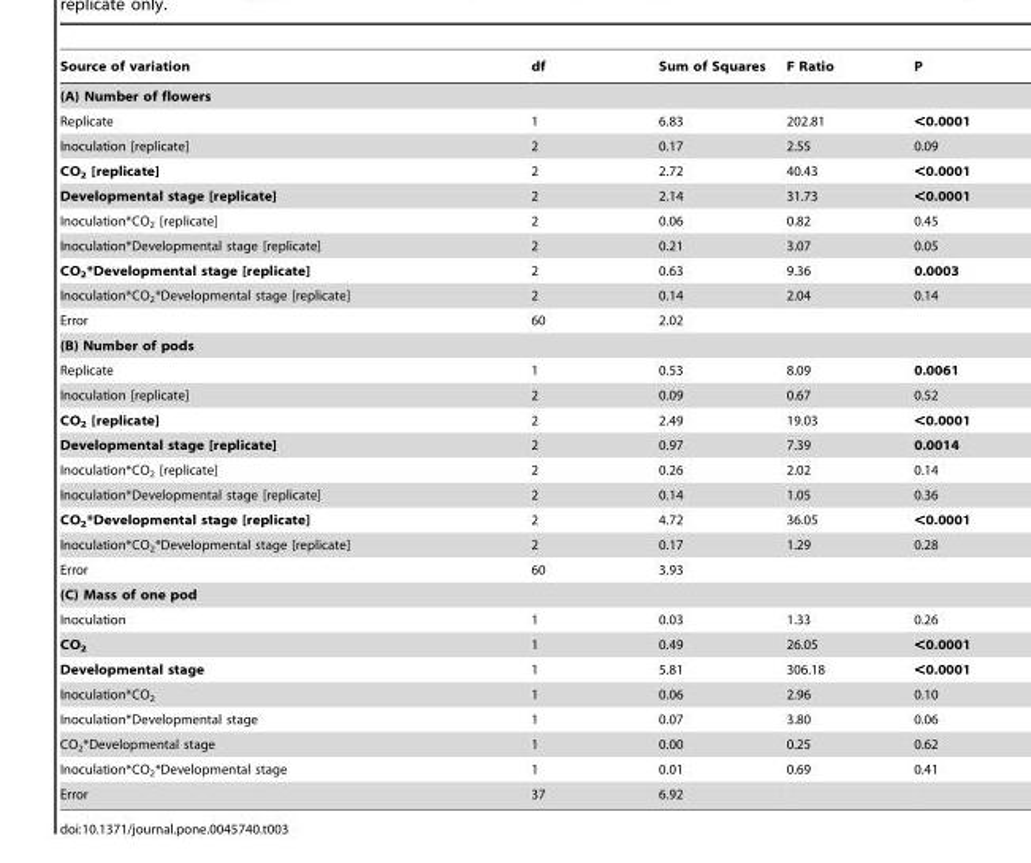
<table><thead><tr><td>Source of variation</td><td>df</td><td>Sum of Squares</td><td>F Ratio</td><td>P</td></tr></thead><tbody><tr><td colspan="5">(A) Number of flowers</td></tr><tr><td>Replicate</td><td>1</td><td>6.83</td><td>202.81</td><td>&lt;0.0001</td></tr><tr><td>Inoculation [replicate]</td><td>2</td><td>0.17</td><td>2.55</td><td>0.09</td></tr><tr><td>CO<sub>2</sub> [replicate]</td><td>2</td><td>2.72</td><td>40.43</td><td>&lt;0.0001</td></tr><tr><td>Developmental stage [replicate]</td><td>2</td><td>2.14</td><td>31.73</td><td>&lt;0.0001</td></tr><tr><td>Inoculation*CO<sub>2</sub> [replicate]</td><td>2</td><td>0.06</td><td>0.82</td><td>0.45</td></tr><tr><td>Inoculation*Developmental stage [replicate]</td><td>2</td><td>0.21</td><td>3.07</td><td>0.05</td></tr><tr><td>CO<sub>2</sub>*Developmental stage [replicate]</td><td>2</td><td>0.63</td><td>9.36</td><td>0.0003</td></tr><tr><td>Inoculation*CO<sub>2</sub>*Developmental stage [replicate]</td><td>2</td><td>0.14</td><td>2.04</td><td>0.14</td></tr><tr><td>Error</td><td>60</td><td>2.02</td><td></td><td></td></tr><tr><td colspan="5">(B) Number of pods</td></tr><tr><td>Replicate</td><td>1</td><td>0.53</td><td>8.09</td><td>0.0061</td></tr><tr><td>Inoculation [replicate]</td><td>2</td><td>0.09</td><td>0.67</td><td>0.52</td></tr><tr><td>CO<sub>2</sub> [replicate]</td><td>2</td><td>2.49</td><td>19.03</td><td>&lt;0.0001</td></tr><tr><td>Developmental stage [replicate]</td><td>2</td><td>0.97</td><td>7.39</td><td>0.0014</td></tr><tr><td>Inoculation*CO<sub>2</sub> [replicate]</td><td>2</td><td>0.26</td><td>2.02</td><td>0.14</td></tr><tr><td>Inoculation*Developmental stage [replicate]</td><td>2</td><td>0.14</td><td>1.05</td><td>0.36</td></tr><tr><td>CO<sub>2</sub>*Developmental stage [replicate]</td><td>2</td><td>4.72</td><td>36.05</td><td>&lt;0.0001</td></tr><tr><td>Inoculation*CO<sub>2</sub>*Developmental stage [replicate]</td><td>2</td><td>0.17</td><td>1.29</td><td>0.28</td></tr><tr><td>Error</td><td>60</td><td>3.93</td><td></td><td></td></tr><tr><td colspan="5">(C) Mass of one pod</td></tr><tr><td>Inoculation</td><td>1</td><td>0.03</td><td>1.33</td><td>0.26</td></tr><tr><td>CO<sub>2</sub></td><td>1</td><td>0.49</td><td>26.05</td><td>&lt;0.0001</td></tr><tr><td>Developmental stage</td><td>1</td><td>5.81</td><td>306.18</td><td>&lt;0.0001</td></tr><tr><td>Inoculation*CO<sub>2</sub></td><td>1</td><td>0.06</td><td>2.96</td><td>0.10</td></tr><tr><td>Inoculation*Developmental stage</td><td>1</td><td>0.07</td><td>3.80</td><td>0.06</td></tr><tr><td>CO<sub>2</sub>*Developmental stage</td><td>1</td><td>0.00</td><td>0.25</td><td>0.62</td></tr><tr><td>Inoculation*CO<sub>2</sub>*Developmental stage</td><td>1</td><td>0.01</td><td>0.69</td><td>0.41</td></tr><tr><td>Error</td><td>37</td><td>6.92</td><td></td><td></td></tr></tbody></table>